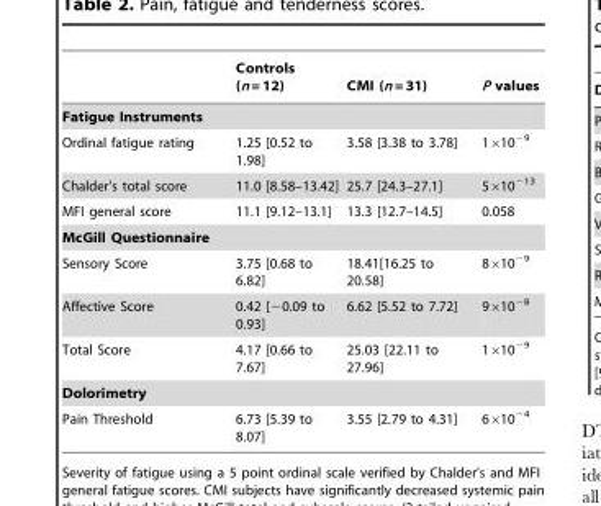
<table><thead><tr><td></td><td>Controls (n = 12)</td><td>CMI (n = 31)</td><td>P values</td></tr></thead><tbody><tr><td colspan="4">Fatigue Instruments</td></tr><tr><td>Ordinal fatigue rating</td><td>1.25 [0.52 to 1.98]</td><td>3.58 [3.38 to 3.78]</td><td>1×10<sup>−9</sup></td></tr><tr><td>Chalder’s total score</td><td>11.0 [8.58–13.42]</td><td>25.7 [24.3–27.1]</td><td>5×10<sup>−13</sup></td></tr><tr><td>MFI general score</td><td>11.1 [9.12–13.1]</td><td>13.3 [12.7–14.5]</td><td>0.058</td></tr><tr><td colspan="4">McGill Questionnaire</td></tr><tr><td>Sensory Score</td><td>3.75 [0.68 to 6.82]</td><td>18.41[16.25 to 20.58]</td><td>8×10<sup>−9</sup></td></tr><tr><td>Affective Score</td><td>0.42 [−0.09 to 0.93]</td><td>6.62 [5.52 to 7.72]</td><td>9×10<sup>−8</sup></td></tr><tr><td>Total Score</td><td>4.17 [0.66 to 7.67]</td><td>25.03 [22.11 to 27.96]</td><td>1×10<sup>−9</sup></td></tr><tr><td colspan="4">Dolorimetry</td></tr><tr><td>Pain Threshold</td><td>6.73 [5.39 to 8.07]</td><td>3.55 [2.79 to 4.31]</td><td>6×10<sup>−4</sup></td></tr></tbody></table>